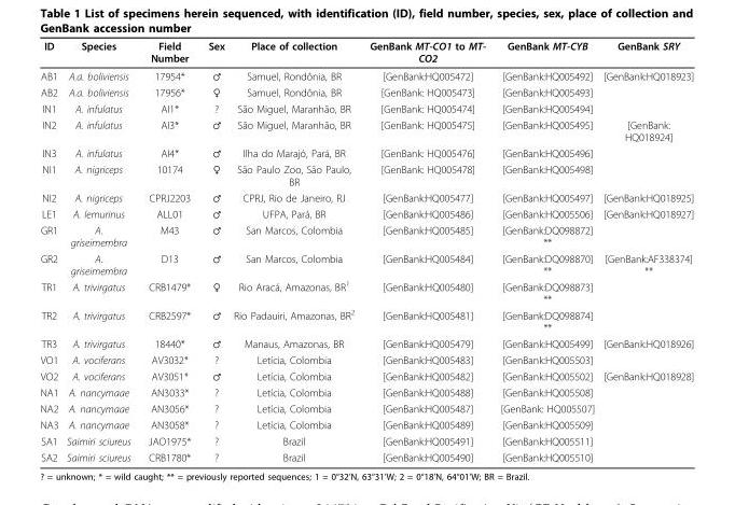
<table><thead><tr><td>ID</td><td>Species</td><td>Field Number</td><td>Sex</td><td>Place of collection</td><td>GenBank MT-CO1 to MT- CO2</td><td>GenBank MT-CYB</td><td>GenBank SRY</td></tr></thead><tbody><tr><td>AB1</td><td>A.a. boliviensis</td><td>17954*</td><td>♂</td><td>Samuel, Rondônia, BR</td><td>[GenBank:HQ005472]</td><td>[GenBank:HQ005492]</td><td>[GenBank:HQ018923]</td></tr><tr><td>AB2</td><td>A.a. boliviensis</td><td>17956*</td><td>♀</td><td>Samuel, Rondônia, BR</td><td>[GenBank: HQ005473]</td><td>[GenBank:HQ005493]</td><td></td></tr><tr><td>IN1</td><td>A. infulatus</td><td>AI1*</td><td>?</td><td>São Miguel, Maranhão, BR</td><td>[GenBank: HQ005474]</td><td>[GenBank:HQ005494]</td><td></td></tr><tr><td>IN2</td><td>A. infulatus</td><td>AI3*</td><td>♂</td><td>São Miguel, Maranhão, BR</td><td>[GenBank: HQ005475]</td><td>[GenBank:HQ005495]</td><td>[GenBank: HQ018924]</td></tr><tr><td>IN3</td><td>A. infulatus</td><td>AI4*</td><td>♂</td><td>Ilha do Marajó, Pará, BR</td><td>[GenBank: HQ005476]</td><td>[GenBank:HQ005496]</td><td></td></tr><tr><td>NI1</td><td>A. nigriceps</td><td>10174</td><td>♀</td><td>São Paulo Zoo, São Paulo, BR</td><td>[GenBank: HQ005478]</td><td>[GenBank:HQ005498]</td><td></td></tr><tr><td>NI2</td><td>A. nigriceps</td><td>CPRJ2203</td><td>♂</td><td>CPRJ, Rio de Janeiro, RJ</td><td>[GenBank:HQ005477]</td><td>[GenBank:HQ005497]</td><td>[GenBank:HQ018925]</td></tr><tr><td>LE1</td><td>A. lemurinus</td><td>ALL01</td><td>♂</td><td>UFPA, Pará, BR</td><td>[GenBank:HQ005486]</td><td>[GenBank:HQ005506]</td><td>[GenBank:HQ018927]</td></tr><tr><td>GR1</td><td>A. griseimembra</td><td>M43</td><td>♂</td><td>San Marcos, Colombia</td><td>[GenBank:HQ005485]</td><td>[GenBank:DQ098872] **</td><td></td></tr><tr><td>GR2</td><td>A. griseimembra</td><td>D13</td><td>♂</td><td>San Marcos, Colombia</td><td>[GenBank:HQ005484]</td><td>[GenBank:DQ098870] **</td><td>[GenBank:AF338374] **</td></tr><tr><td>TR1</td><td>A. trivirgatus</td><td>CRB1479*</td><td>♀</td><td>Rio Aracá, Amazonas, BR<sup>1</sup></td><td>[GenBank:HQ005480]</td><td>[GenBank:DQ098873] **</td><td></td></tr><tr><td>TR2</td><td>A. trivirgatus</td><td>CRB2597*</td><td>♂</td><td>Rio Padauiri, Amazonas, BR<sup>2</sup></td><td>[GenBank:HQ005481]</td><td>[GenBank:DQ098874] **</td><td></td></tr><tr><td>TR3</td><td>A. trivirgatus</td><td>18440*</td><td>♂</td><td>Manaus, Amazonas, BR</td><td>[GenBank:HQ005479]</td><td>[GenBank:HQ005499]</td><td>[GenBank:HQ018926]</td></tr><tr><td>VO1</td><td>A. vociferans</td><td>AV3032*</td><td>?</td><td>Letícia, Colombia</td><td>[GenBank:HQ005483]</td><td>[GenBank:HQ005503]</td><td></td></tr><tr><td>VO2</td><td>A. vociferans</td><td>AV3051*</td><td>♂</td><td>Letícia, Colombia</td><td>[GenBank:HQ005482]</td><td>[GenBank:HQ005502]</td><td>[GenBank:HQ018928]</td></tr><tr><td>NA1</td><td>A. nancymaae</td><td>AN3033*</td><td>?</td><td>Letícia, Colombia</td><td>[GenBank:HQ005488]</td><td>[GenBank:HQ005508]</td><td></td></tr><tr><td>NA2</td><td>A. nancymaae</td><td>AN3056*</td><td>?</td><td>Letícia, Colombia</td><td>[GenBank:HQ005487]</td><td>[GenBank: HQ005507]</td><td></td></tr><tr><td>NA3</td><td>A. nancymaae</td><td>AN3058*</td><td>?</td><td>Letícia, Colombia</td><td>[GenBank:HQ005489]</td><td>[GenBank:HQ005509]</td><td></td></tr><tr><td>SA1</td><td>Saimiri sciureus</td><td>JAO1975*</td><td>?</td><td>Brazil</td><td>[GenBank:HQ005491]</td><td>[GenBank:HQ005511]</td><td></td></tr><tr><td>SA2</td><td>Saimiri sciureus</td><td>CRB1780*</td><td>?</td><td>Brazil</td><td>[GenBank:HQ005490]</td><td>[GenBank:HQ005510]</td><td></td></tr></tbody></table>